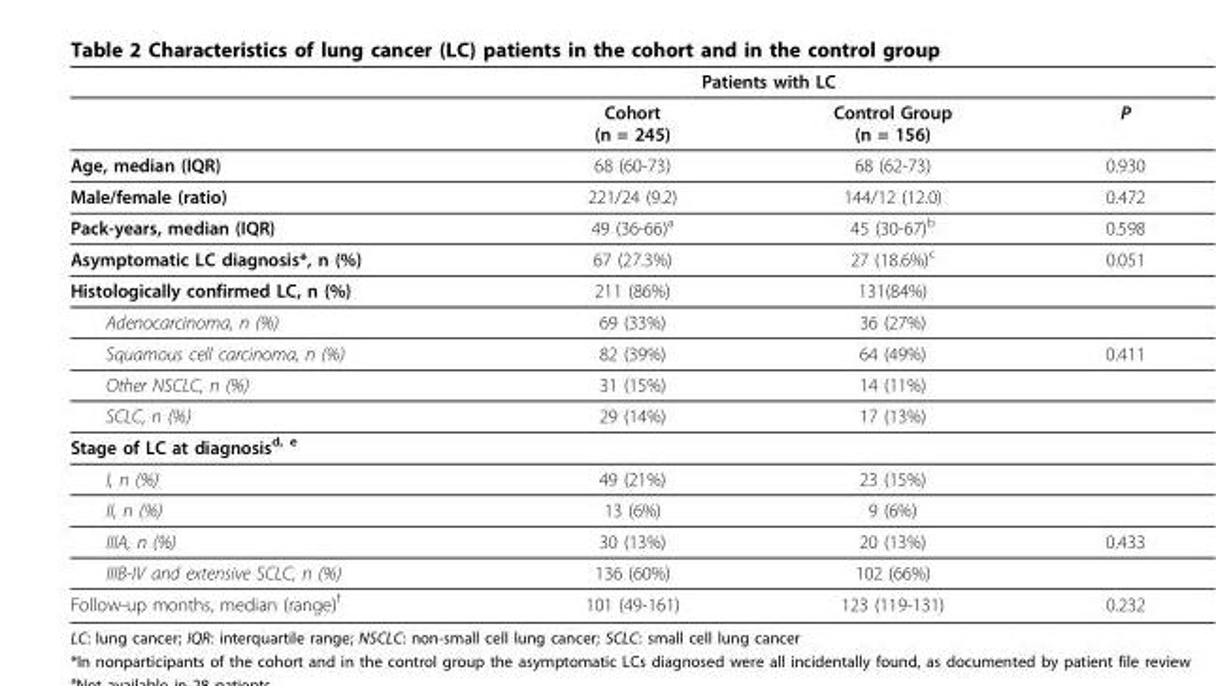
<table><thead><tr><td rowspan="2"></td><td colspan="2">Patients with LC</td><td rowspan="2">P</td></tr><tr><td>Cohort (n = 245)</td><td>Control Group (n = 156)</td></tr></thead><tbody><tr><td>Age, median (IQR)</td><td>68 (60-73)</td><td>68 (62-73)</td><td>0.930</td></tr><tr><td>Male/female (ratio)</td><td>221/24 (9.2)</td><td>144/12 (12.0)</td><td>0.472</td></tr><tr><td>Pack-years, median (IQR)</td><td>49 (36-66)<sup>a</sup></td><td>45 (30-67)<sup>b</sup></td><td>0.598</td></tr><tr><td>Asymptomatic LC diagnosis*, n (%)</td><td>67 (27.3%)</td><td>27 (18.6%)<sup>c</sup></td><td>0.051</td></tr><tr><td>Histologically confirmed LC, n (%)</td><td>211 (86%)</td><td>131(84%)</td><td></td></tr><tr><td>Adenocarcinoma, n (%)</td><td>69 (33%)</td><td>36 (27%)</td><td></td></tr><tr><td>Squamous cell carcinoma, n (%)</td><td>82 (39%)</td><td>64 (49%)</td><td>0.411</td></tr><tr><td>Other NSCLC, n (%)</td><td>31 (15%)</td><td>14 (11%)</td><td></td></tr><tr><td>SCLC, n (%)</td><td>29 (14%)</td><td>17 (13%)</td><td></td></tr><tr><td colspan="4">Stage of LC at diagnosis<sup>d, e</sup></td></tr><tr><td>I, n (%)</td><td>49 (21%)</td><td>23 (15%)</td><td></td></tr><tr><td>II, n (%)</td><td>13 (6%)</td><td>9 (6%)</td><td></td></tr><tr><td>IIIA, n (%)</td><td>30 (13%)</td><td>20 (13%)</td><td>0.433</td></tr><tr><td>IIIB-IV and extensive SCLC, n (%)</td><td>136 (60%)</td><td>102 (66%)</td><td></td></tr><tr><td>Follow-up months, median (range)<sup>f</sup></td><td>101 (49-161)</td><td>123 (119-131)</td><td>0.232</td></tr></tbody></table>